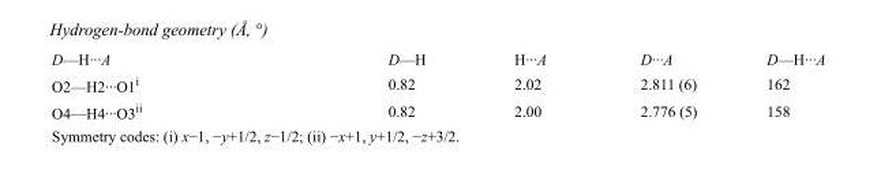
<table><tbody><tr><td>D—H···A</td><td>D—H</td><td>H···A</td><td>D···A</td><td>D—H···A</td></tr><tr><td>O2—H2···O1<sup>i</sup></td><td>0.82</td><td>2.02</td><td>2.811 (6)</td><td>162</td></tr><tr><td>O4—H4···O3<sup>ii</sup></td><td>0.82</td><td>2.00</td><td>2.776 (5)</td><td>158</td></tr></tbody></table>